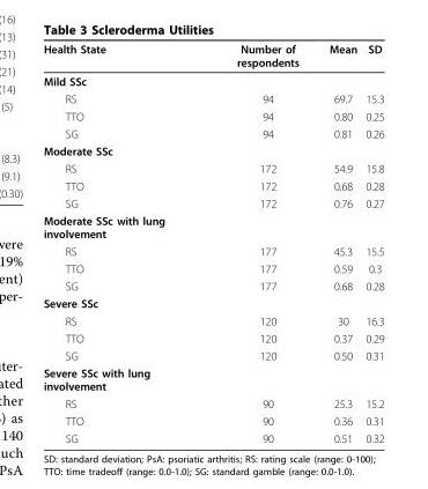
<table><thead><tr><td>Health State</td><td>Number of respondents</td><td>Mean</td><td>SD</td></tr></thead><tbody><tr><td colspan="4">Mild SSc</td></tr><tr><td>RS</td><td>94</td><td>69.7</td><td>15.3</td></tr><tr><td>TTO</td><td>94</td><td>0.80</td><td>0.25</td></tr><tr><td>SG</td><td>94</td><td>0.81</td><td>0.26</td></tr><tr><td colspan="4">Moderate SSc</td></tr><tr><td>RS</td><td>172</td><td>54.9</td><td>15.8</td></tr><tr><td>TTO</td><td>172</td><td>0.68</td><td>0.28</td></tr><tr><td>SG</td><td>172</td><td>0.76</td><td>0.27</td></tr><tr><td colspan="4">Moderate SSc with lung involvement</td></tr><tr><td>RS</td><td>177</td><td>45.3</td><td>15.5</td></tr><tr><td>TTO</td><td>177</td><td>0.59</td><td>0.3</td></tr><tr><td>SG</td><td>177</td><td>0.68</td><td>0.28</td></tr><tr><td colspan="4">Severe SSc</td></tr><tr><td>RS</td><td>120</td><td>30</td><td>16.3</td></tr><tr><td>TTO</td><td>120</td><td>0.37</td><td>0.29</td></tr><tr><td>SG</td><td>120</td><td>0.50</td><td>0.31</td></tr><tr><td colspan="4">Severe SSc with lung involvement</td></tr><tr><td>RS</td><td>90</td><td>25.3</td><td>15.2</td></tr><tr><td>TTO</td><td>90</td><td>0.36</td><td>0.31</td></tr><tr><td>SG</td><td>90</td><td>0.51</td><td>0.32</td></tr></tbody></table>